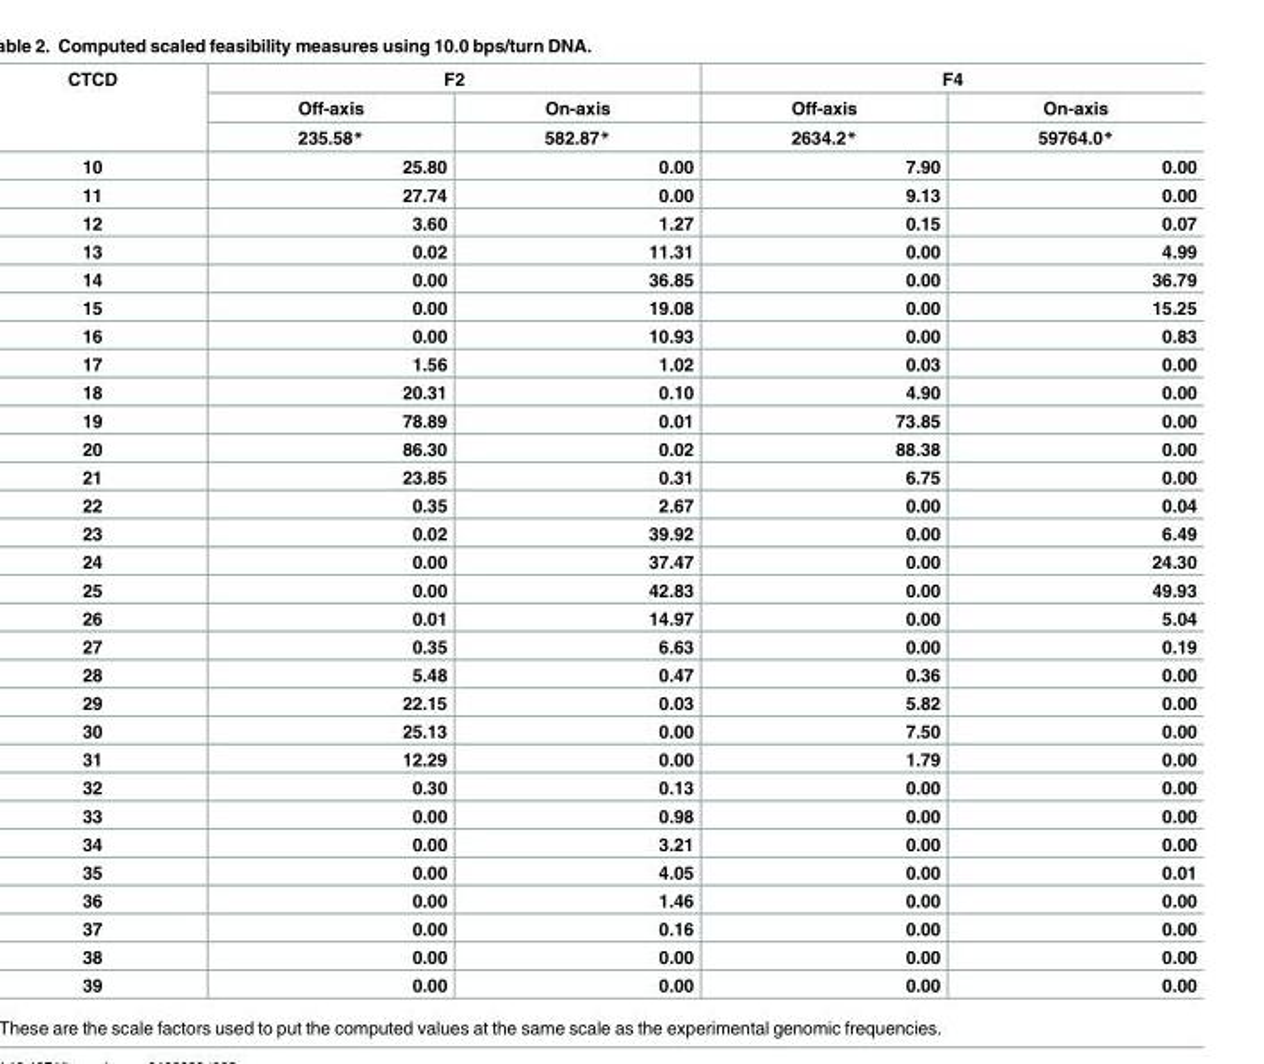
<table><thead><tr><td rowspan="3">CTCD</td><td colspan="2">F2</td><td colspan="2">F4</td></tr><tr><td rowspan="2">Off-axis 235.58*</td><td rowspan="2">On-axis 582.87*</td><td rowspan="2">Off-axis 2634.2*</td><td rowspan="2">On-axis 59764.0*</td></tr><tr></tr></thead><tbody><tr><td>10</td><td>25.80</td><td>0.00</td><td>7.90</td><td>0.00</td></tr><tr><td>11</td><td>27.74</td><td>0.00</td><td>9.13</td><td>0.00</td></tr><tr><td>12</td><td>3.60</td><td>1.27</td><td>0.15</td><td>0.07</td></tr><tr><td>13</td><td>0.02</td><td>11.31</td><td>0.00</td><td>4.99</td></tr><tr><td>14</td><td>0.00</td><td>36.85</td><td>0.00</td><td>36.79</td></tr><tr><td>15</td><td>0.00</td><td>19.08</td><td>0.00</td><td>15.25</td></tr><tr><td>16</td><td>0.00</td><td>10.93</td><td>0.00</td><td>0.83</td></tr><tr><td>17</td><td>1.56</td><td>1.02</td><td>0.03</td><td>0.00</td></tr><tr><td>18</td><td>20.31</td><td>0.10</td><td>4.90</td><td>0.00</td></tr><tr><td>19</td><td>78.89</td><td>0.01</td><td>73.85</td><td>0.00</td></tr><tr><td>20</td><td>86.30</td><td>0.02</td><td>88.38</td><td>0.00</td></tr><tr><td>21</td><td>23.85</td><td>0.31</td><td>6.75</td><td>0.00</td></tr><tr><td>22</td><td>0.35</td><td>2.67</td><td>0.00</td><td>0.04</td></tr><tr><td>23</td><td>0.02</td><td>39.92</td><td>0.00</td><td>6.49</td></tr><tr><td>24</td><td>0.00</td><td>37.47</td><td>0.00</td><td>24.30</td></tr><tr><td>25</td><td>0.00</td><td>42.83</td><td>0.00</td><td>49.93</td></tr><tr><td>26</td><td>0.01</td><td>14.97</td><td>0.00</td><td>5.04</td></tr><tr><td>27</td><td>0.35</td><td>6.63</td><td>0.00</td><td>0.19</td></tr><tr><td>28</td><td>5.48</td><td>0.47</td><td>0.36</td><td>0.00</td></tr><tr><td>29</td><td>22.15</td><td>0.03</td><td>5.82</td><td>0.00</td></tr><tr><td>30</td><td>25.13</td><td>0.00</td><td>7.50</td><td>0.00</td></tr><tr><td>31</td><td>12.29</td><td>0.00</td><td>1.79</td><td>0.00</td></tr><tr><td>32</td><td>0.30</td><td>0.13</td><td>0.00</td><td>0.00</td></tr><tr><td>33</td><td>0.00</td><td>0.98</td><td>0.00</td><td>0.00</td></tr><tr><td>34</td><td>0.00</td><td>3.21</td><td>0.00</td><td>0.00</td></tr><tr><td>35</td><td>0.00</td><td>4.05</td><td>0.00</td><td>0.01</td></tr><tr><td>36</td><td>0.00</td><td>1.46</td><td>0.00</td><td>0.00</td></tr><tr><td>37</td><td>0.00</td><td>0.16</td><td>0.00</td><td>0.00</td></tr><tr><td>38</td><td>0.00</td><td>0.00</td><td>0.00</td><td>0.00</td></tr><tr><td>39</td><td>0.00</td><td>0.00</td><td>0.00</td><td>0.00</td></tr></tbody></table>